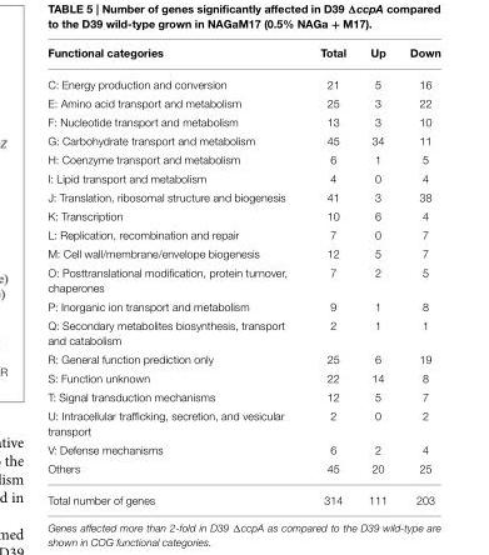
<table><thead><tr><td>Functional categories</td><td>Total</td><td>Up</td><td>Down</td></tr></thead><tbody><tr><td>C: Energy production and conversion</td><td>21</td><td>5</td><td>16</td></tr><tr><td>E: Amino acid transport and metabolism</td><td>25</td><td>3</td><td>22</td></tr><tr><td>F: Nucleotide transport and metabolism</td><td>13</td><td>3</td><td>10</td></tr><tr><td>G: Carbohydrate transport and metabolism</td><td>45</td><td>34</td><td>11</td></tr><tr><td>H: Coenzyme transport and metabolism</td><td>6</td><td>1</td><td>5</td></tr><tr><td>I: Lipid transport and metabolism</td><td>4</td><td>0</td><td>4</td></tr><tr><td>J: Translation, ribosomal structure and biogenesis</td><td>41</td><td>3</td><td>38</td></tr><tr><td>K: Transcription</td><td>10</td><td>6</td><td>4</td></tr><tr><td>L: Replication, recombination and repair</td><td>7</td><td>0</td><td>7</td></tr><tr><td>M: Cell wall/membrane/envelope biogenesis</td><td>12</td><td>5</td><td>7</td></tr><tr><td>O: Posttranslational modification, protein turnover, chaperones</td><td>7</td><td>2</td><td>5</td></tr><tr><td>P: Inorganic ion transport and metabolism</td><td>9</td><td>1</td><td>8</td></tr><tr><td>Q: Secondary metabolites biosynthesis, transport and catabolism</td><td>2</td><td>1</td><td>1</td></tr><tr><td>R: General function prediction only</td><td>25</td><td>6</td><td>19</td></tr><tr><td>S: Function unknown</td><td>22</td><td>14</td><td>8</td></tr><tr><td>T: Signal transduction mechanisms</td><td>12</td><td>5</td><td>7</td></tr><tr><td>U: Intracellular trafficking, secretion, and vesicular transport</td><td>2</td><td>0</td><td>2</td></tr><tr><td>V: Defense mechanisms</td><td>6</td><td>2</td><td>4</td></tr><tr><td>Others</td><td>45</td><td>20</td><td>25</td></tr><tr><td>Total number of genes</td><td>314</td><td>111</td><td>203</td></tr></tbody></table>